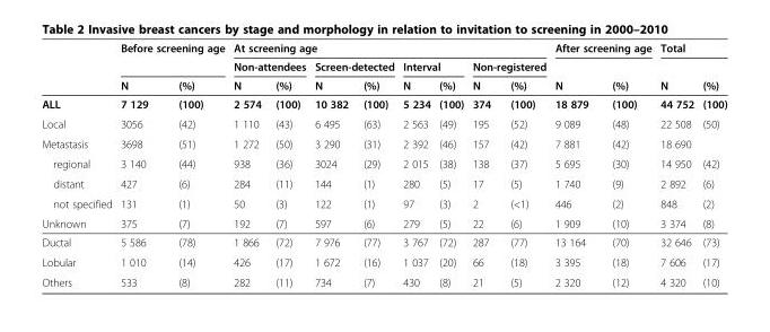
<table><thead><tr><td rowspan="3"></td><td colspan="2">Before screening age</td><td colspan="8">At screening age</td><td colspan="2">After screening age</td><td colspan="2">Total</td></tr><tr><td rowspan="2">N</td><td rowspan="2">(%)</td><td colspan="2">Non-attendees</td><td colspan="2">Screen-detected</td><td colspan="2">Interval</td><td colspan="2">Non-registered</td><td rowspan="2">N</td><td rowspan="2">(%)</td><td rowspan="2">N</td><td rowspan="2">(%)</td></tr><tr><td>N</td><td>(%)</td><td>N</td><td>(%)</td><td>N</td><td>(%)</td><td>N</td><td>(%)</td></tr></thead><tbody><tr><td>ALL</td><td>7 129</td><td>(100)</td><td>2 574</td><td>(100)</td><td>10 382</td><td>(100)</td><td>5 234</td><td>(100)</td><td>374</td><td>(100)</td><td>18 879</td><td>(100)</td><td>44 752</td><td>(100)</td></tr><tr><td>Local</td><td>3056</td><td>(42)</td><td>1 110</td><td>(43)</td><td>6 495</td><td>(63)</td><td>2 563</td><td>(49)</td><td>195</td><td>(52)</td><td>9 089</td><td>(48)</td><td>22 508</td><td>(50)</td></tr><tr><td>Metastasis</td><td>3698</td><td>(51)</td><td>1 272</td><td>(50)</td><td>3 290</td><td>(31)</td><td>2 392</td><td>(46)</td><td>157</td><td>(42)</td><td>7 881</td><td>(42)</td><td>18 690</td><td></td></tr><tr><td>regional</td><td>3 140</td><td>(44)</td><td>938</td><td>(36)</td><td>3024</td><td>(29)</td><td>2 015</td><td>(38)</td><td>138</td><td>(37)</td><td>5 695</td><td>(30)</td><td>14 950</td><td>(42)</td></tr><tr><td>distant</td><td>427</td><td>(6)</td><td>284</td><td>(11)</td><td>144</td><td>(1)</td><td>280</td><td>(5)</td><td>17</td><td>(5)</td><td>1 740</td><td>(9)</td><td>2 892</td><td>(6)</td></tr><tr><td>not specified</td><td>131</td><td>(1)</td><td>50</td><td>(3)</td><td>122</td><td>(1)</td><td>97</td><td>(3)</td><td>2</td><td>(&lt;1)</td><td>446</td><td>(2)</td><td>848</td><td>(2)</td></tr><tr><td>Unknown</td><td>375</td><td>(7)</td><td>192</td><td>(7)</td><td>597</td><td>(6)</td><td>279</td><td>(5)</td><td>22</td><td>(6)</td><td>1 909</td><td>(10)</td><td>3 374</td><td>(8)</td></tr><tr><td>Ductal</td><td>5 586</td><td>(78)</td><td>1 866</td><td>(72)</td><td>7 976</td><td>(77)</td><td>3 767</td><td>(72)</td><td>287</td><td>(77)</td><td>13 164</td><td>(70)</td><td>32 646</td><td>(73)</td></tr><tr><td>Lobular</td><td>1 010</td><td>(14)</td><td>426</td><td>(17)</td><td>1 672</td><td>(16)</td><td>1 037</td><td>(20)</td><td>66</td><td>(18)</td><td>3 395</td><td>(18)</td><td>7 606</td><td>(17)</td></tr><tr><td>Others</td><td>533</td><td>(8)</td><td>282</td><td>(11)</td><td>734</td><td>(7)</td><td>430</td><td>(8)</td><td>21</td><td>(5)</td><td>2 320</td><td>(12)</td><td>4 320</td><td>(10)</td></tr></tbody></table>